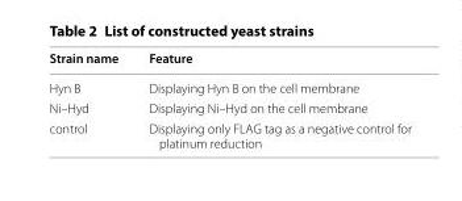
<table><thead><tr><td>Strain name</td><td>Feature</td></tr></thead><tbody><tr><td>Hyn B</td><td>Displaying Hyn B on the cell membrane</td></tr><tr><td>Ni–Hyd</td><td>Displaying Ni–Hyd on the cell membrane</td></tr><tr><td>control</td><td>Displaying only FLAG tag as a negative control for platinum reduction</td></tr></tbody></table>